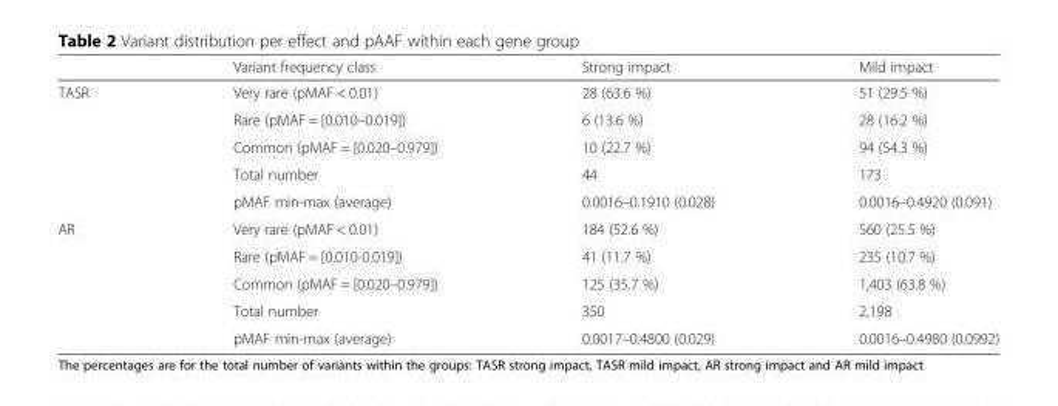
<table><thead><tr><td></td><td>Variant frequency class</td><td>Strong impact</td><td>Mild impact</td></tr></thead><tbody><tr><td rowspan="5">TASR</td><td>Very rare (pMAF &lt; 0.01)</td><td>28 (63.6 %)</td><td>51 (29.5 %)</td></tr><tr><td>Rare (pMAF = [0.010–0.019])</td><td>6 (13.6 %)</td><td>28 (16.2 %)</td></tr><tr><td>Common (pMAF = [0.020–0.979])</td><td>10 (22.7 %)</td><td>94 (54.3 %)</td></tr><tr><td>Total number</td><td>44</td><td>173</td></tr><tr><td>pMAF min-max (average)</td><td>0.0016–0.1910 (0.028)</td><td>0.0016–0.4920 (0.091)</td></tr><tr><td rowspan="5">AR</td><td>Very rare (pMAF &lt; 0.01)</td><td>184 (52.6 %)</td><td>560 (25.5 %)</td></tr><tr><td>Rare (pMAF = [0.010-0.019])</td><td>41 (11.7 %)</td><td>235 (10.7 %)</td></tr><tr><td>Common (pMAF = [0.020–0.979])</td><td>125 (35.7 %)</td><td>1,403 (63.8 %)</td></tr><tr><td>Total number</td><td>350</td><td>2,198</td></tr><tr><td>pMAF min-max (average)</td><td>0.0017–0.4800 (0.029)</td><td>0.0016–0.4980 (0.0992)</td></tr></tbody></table>